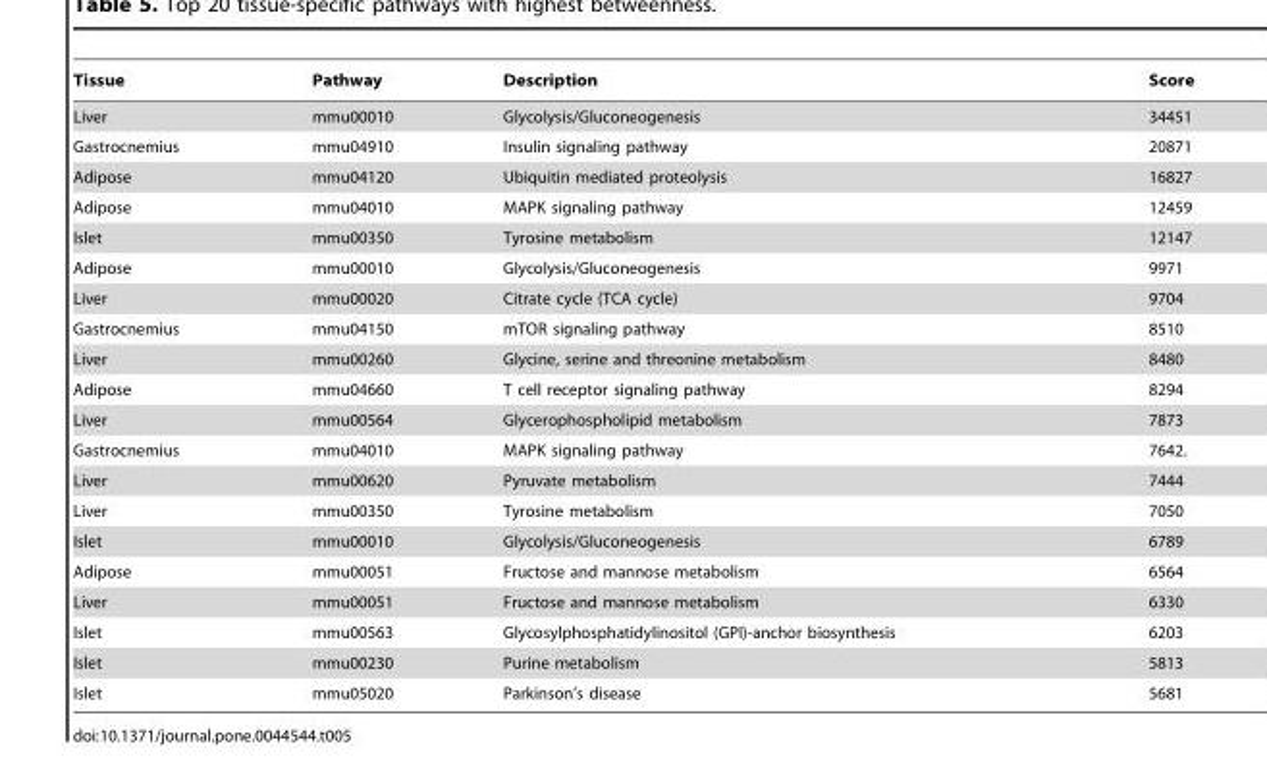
<table><thead><tr><td>Tissue</td><td>Pathway</td><td>Description</td><td>Score</td></tr></thead><tbody><tr><td>Liver</td><td>mmu00010</td><td>Glycolysis/Gluconeogenesis</td><td>34451</td></tr><tr><td>Gastrocnemius</td><td>mmu04910</td><td>Insulin signaling pathway</td><td>20871</td></tr><tr><td>Adipose</td><td>mmu04120</td><td>Ubiquitin mediated proteolysis</td><td>16827</td></tr><tr><td>Adipose</td><td>mmu04010</td><td>MAPK signaling pathway</td><td>12459</td></tr><tr><td>Islet</td><td>mmu00350</td><td>Tyrosine metabolism</td><td>12147</td></tr><tr><td>Adipose</td><td>mmu00010</td><td>Glycolysis/Gluconeogenesis</td><td>9971</td></tr><tr><td>Liver</td><td>mmu00020</td><td>Citrate cycle (TCA cycle)</td><td>9704</td></tr><tr><td>Gastrocnemius</td><td>mmu04150</td><td>mTOR signaling pathway</td><td>8510</td></tr><tr><td>Liver</td><td>mmu00260</td><td>Glycine, serine and threonine metabolism</td><td>8480</td></tr><tr><td>Adipose</td><td>mmu04660</td><td>T cell receptor signaling pathway</td><td>8294</td></tr><tr><td>Liver</td><td>mmu00564</td><td>Glycerophospholipid metabolism</td><td>7873</td></tr><tr><td>Gastrocnemius</td><td>mmu04010</td><td>MAPK signaling pathway</td><td>7642.</td></tr><tr><td>Liver</td><td>mmu00620</td><td>Pyruvate metabolism</td><td>7444</td></tr><tr><td>Liver</td><td>mmu00350</td><td>Tyrosine metabolism</td><td>7050</td></tr><tr><td>Islet</td><td>mmu00010</td><td>Glycolysis/Gluconeogenesis</td><td>6789</td></tr><tr><td>Adipose</td><td>mmu00051</td><td>Fructose and mannose metabolism</td><td>6564</td></tr><tr><td>Liver</td><td>mmu00051</td><td>Fructose and mannose metabolism</td><td>6330</td></tr><tr><td>Islet</td><td>mmu00563</td><td>Glycosylphosphatidylinositol (GPI)-anchor biosynthesis</td><td>6203</td></tr><tr><td>Islet</td><td>mmu00230</td><td>Purine metabolism</td><td>5813</td></tr><tr><td>Islet</td><td>mmu05020</td><td>Parkinson’s disease</td><td>5681</td></tr></tbody></table>